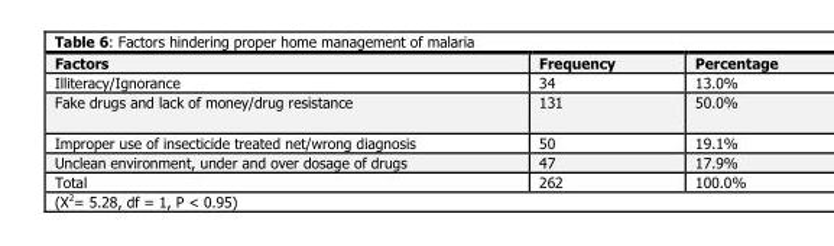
<table><thead><tr><td>Factors</td><td>Frequency</td><td>Percentage</td></tr></thead><tbody><tr><td>Illiteracy/Ignorance</td><td>34</td><td>13.0%</td></tr><tr><td>Fake drugs and lack of money/drug resistance</td><td>131</td><td>50.0%</td></tr><tr><td>Improper use of insecticide treated net/wrong diagnosis</td><td>50</td><td>19.1%</td></tr><tr><td>Unclean environment, under and over dosage of drugs</td><td>47</td><td>17.9%</td></tr><tr><td>Total</td><td>262</td><td>100.0%</td></tr></tbody></table>